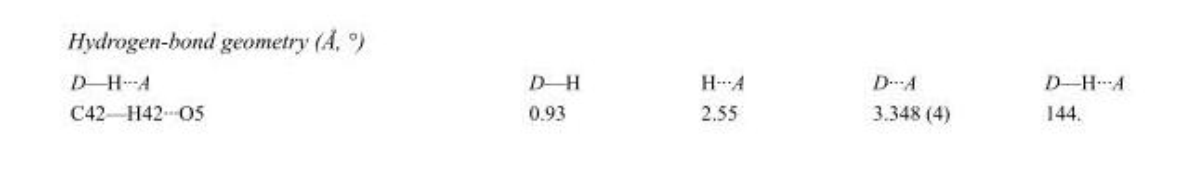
<table><tbody><tr><td>D—H···A</td><td>D—H</td><td>H···A</td><td>D···A</td><td>D—H···A</td></tr><tr><td>C42—H42···O5</td><td>0.93</td><td>2.55</td><td>3.348 (4)</td><td>144.</td></tr></tbody></table>